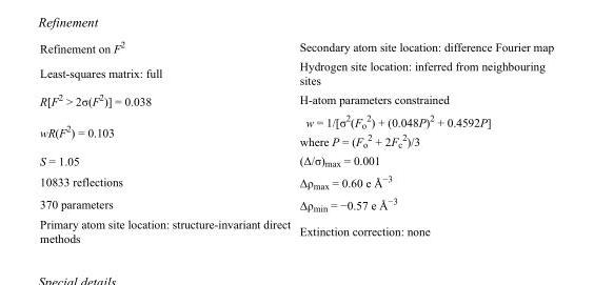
<table><tbody><tr><td>Refinement on F<sup>2</sup></td><td>Secondary atom site location: difference Fourier map</td></tr><tr><td>Least-squares matrix: full</td><td>Hydrogen site location: inferred from neighbouring sites</td></tr><tr><td>R[F<sup>2</sup> &gt; 2σ(F<sup>2</sup>)] = 0.038</td><td>H-atom parameters constrained</td></tr><tr><td>wR(F<sup>2</sup>) = 0.103</td><td>w = 1/[σ<sup>2</sup>(F<sub>o</sub> <sup>2</sup>) + (0.048P)<sup>2</sup> + 0.4592P] where P = (F<sub>o</sub> <sup>2</sup> + 2F<sub>c</sub> <sup>2</sup>)/3</td></tr><tr><td>S = 1.05</td><td>(Δ/σ)<sub>max</sub> = 0.001</td></tr><tr><td>10833 reflections</td><td>Δρ<sub>max</sub> = 0.60 e Å<sup>−3</sup></td></tr><tr><td>370 parameters</td><td>Δρ<sub>min</sub> = −0.57 e Å<sup>−3</sup></td></tr><tr><td>Primary atom site location: structure-invariant direct methods</td><td>Extinction correction: none</td></tr></tbody></table>